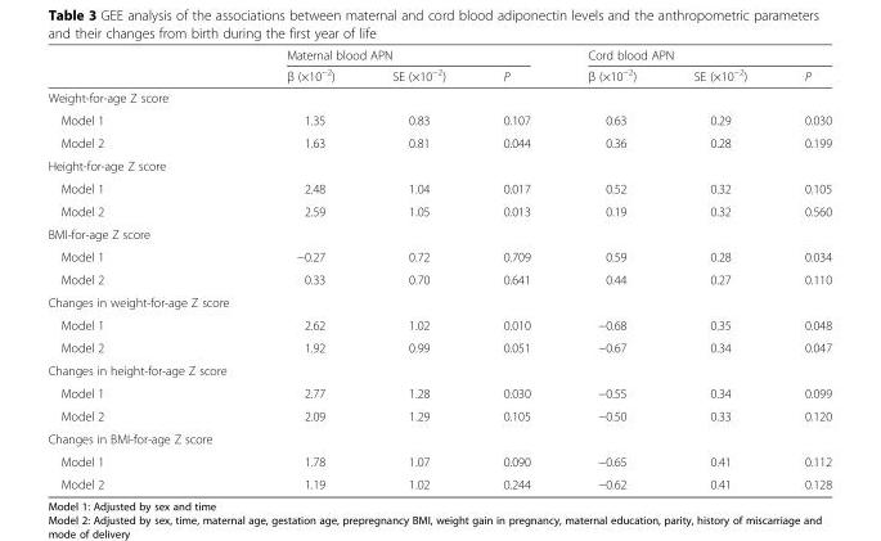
<table><thead><tr><td rowspan="2"></td><td colspan="3">Maternal blood APN</td><td colspan="3">Cord blood APN</td></tr><tr><td>β (×10<sup>−2</sup>)</td><td>SE (×10<sup>−2</sup>)</td><td>P</td><td>β (×10<sup>−2</sup>)</td><td>SE (×10<sup>−2</sup>)</td><td>P</td></tr></thead><tbody><tr><td colspan="7">Weight-for-age Z score</td></tr><tr><td>Model 1</td><td>1.35</td><td>0.83</td><td>0.107</td><td>0.63</td><td>0.29</td><td>0.030</td></tr><tr><td>Model 2</td><td>1.63</td><td>0.81</td><td>0.044</td><td>0.36</td><td>0.28</td><td>0.199</td></tr><tr><td colspan="7">Height-for-age Z score</td></tr><tr><td>Model 1</td><td>2.48</td><td>1.04</td><td>0.017</td><td>0.52</td><td>0.32</td><td>0.105</td></tr><tr><td>Model 2</td><td>2.59</td><td>1.05</td><td>0.013</td><td>0.19</td><td>0.32</td><td>0.560</td></tr><tr><td colspan="7">BMI-for-age Z score</td></tr><tr><td>Model 1</td><td>−0.27</td><td>0.72</td><td>0.709</td><td>0.59</td><td>0.28</td><td>0.034</td></tr><tr><td>Model 2</td><td>0.33</td><td>0.70</td><td>0.641</td><td>0.44</td><td>0.27</td><td>0.110</td></tr><tr><td colspan="7">Changes in weight-for-age Z score</td></tr><tr><td>Model 1</td><td>2.62</td><td>1.02</td><td>0.010</td><td>−0.68</td><td>0.35</td><td>0.048</td></tr><tr><td>Model 2</td><td>1.92</td><td>0.99</td><td>0.051</td><td>−0.67</td><td>0.34</td><td>0.047</td></tr><tr><td colspan="7">Changes in height-for-age Z score</td></tr><tr><td>Model 1</td><td>2.77</td><td>1.28</td><td>0.030</td><td>−0.55</td><td>0.34</td><td>0.099</td></tr><tr><td>Model 2</td><td>2.09</td><td>1.29</td><td>0.105</td><td>−0.50</td><td>0.33</td><td>0.120</td></tr><tr><td colspan="7">Changes in BMI-for-age Z score</td></tr><tr><td>Model 1</td><td>1.78</td><td>1.07</td><td>0.090</td><td>−0.65</td><td>0.41</td><td>0.112</td></tr><tr><td>Model 2</td><td>1.19</td><td>1.02</td><td>0.244</td><td>−0.62</td><td>0.41</td><td>0.128</td></tr></tbody></table>